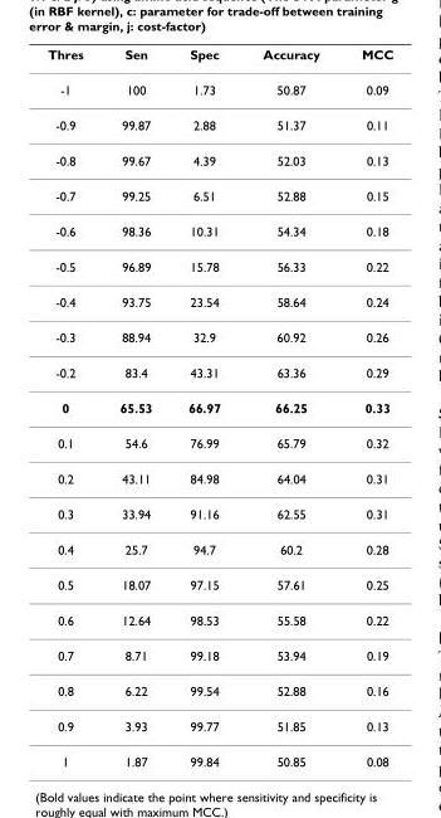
<table><thead><tr><td>Thres</td><td>Sen</td><td>Spec</td><td>Accuracy</td><td>MCC</td></tr></thead><tbody><tr><td>-1</td><td>100</td><td>1.73</td><td>50.87</td><td>0.09</td></tr><tr><td>-0.9</td><td>99.87</td><td>2.88</td><td>51.37</td><td>0.11</td></tr><tr><td>-0.8</td><td>99.67</td><td>4.39</td><td>52.03</td><td>0.13</td></tr><tr><td>-0.7</td><td>99.25</td><td>6.51</td><td>52.88</td><td>0.15</td></tr><tr><td>-0.6</td><td>98.36</td><td>10.31</td><td>54.34</td><td>0.18</td></tr><tr><td>-0.5</td><td>96.89</td><td>15.78</td><td>56.33</td><td>0.22</td></tr><tr><td>-0.4</td><td>93.75</td><td>23.54</td><td>58.64</td><td>0.24</td></tr><tr><td>-0.3</td><td>88.94</td><td>32.9</td><td>60.92</td><td>0.26</td></tr><tr><td>-0.2</td><td>83.4</td><td>43.31</td><td>63.36</td><td>0.29</td></tr><tr><td>0</td><td>65.53</td><td>66.97</td><td>66.25</td><td>0.33</td></tr><tr><td>0.1</td><td>54.6</td><td>76.99</td><td>65.79</td><td>0.32</td></tr><tr><td>0.2</td><td>43.11</td><td>84.98</td><td>64.04</td><td>0.31</td></tr><tr><td>0.3</td><td>33.94</td><td>91.16</td><td>62.55</td><td>0.31</td></tr><tr><td>0.4</td><td>25.7</td><td>94.7</td><td>60.2</td><td>0.28</td></tr><tr><td>0.5</td><td>18.07</td><td>97.15</td><td>57.61</td><td>0.25</td></tr><tr><td>0.6</td><td>12.64</td><td>98.53</td><td>55.58</td><td>0.22</td></tr><tr><td>0.7</td><td>8.71</td><td>99.18</td><td>53.94</td><td>0.19</td></tr><tr><td>0.8</td><td>6.22</td><td>99.54</td><td>52.88</td><td>0.16</td></tr><tr><td>0.9</td><td>3.93</td><td>99.77</td><td>51.85</td><td>0.13</td></tr><tr><td>1</td><td>1.87</td><td>99.84</td><td>50.85</td><td>0.08</td></tr></tbody></table>